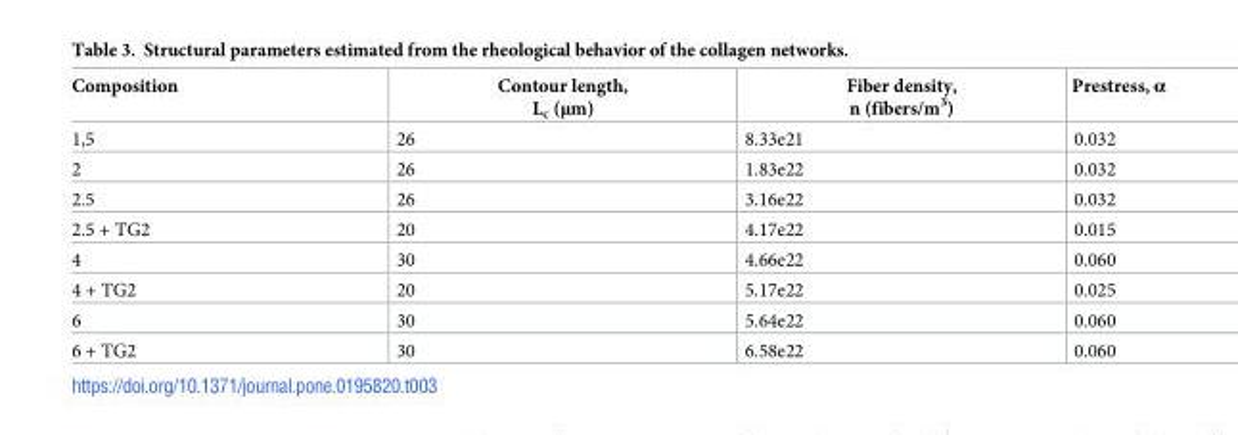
<table><thead><tr><td>Composition</td><td>Contour length, L<sub>c</sub> (μm)</td><td>Fiber density, n (fibers/m<sup>3</sup>)</td><td>Prestress, α</td></tr></thead><tbody><tr><td>1,5</td><td>26</td><td>8.33e21</td><td>0.032</td></tr><tr><td>2</td><td>26</td><td>1.83e22</td><td>0.032</td></tr><tr><td>2.5</td><td>26</td><td>3.16e22</td><td>0.032</td></tr><tr><td>2.5 + TG2</td><td>20</td><td>4.17e22</td><td>0.015</td></tr><tr><td>4</td><td>30</td><td>4.66e22</td><td>0.060</td></tr><tr><td>4 + TG2</td><td>20</td><td>5.17e22</td><td>0.025</td></tr><tr><td>6</td><td>30</td><td>5.64e22</td><td>0.060</td></tr><tr><td>6 + TG2</td><td>30</td><td>6.58e22</td><td>0.060</td></tr></tbody></table>